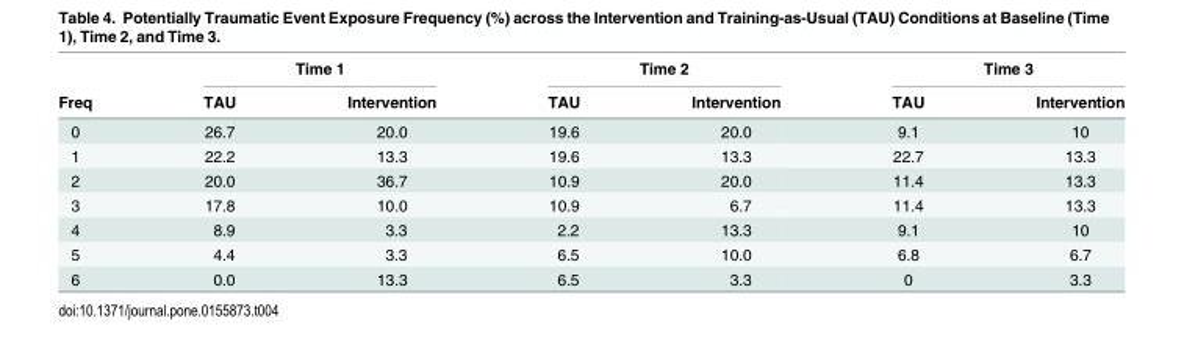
<table><thead><tr><td rowspan="2">Freq</td><td colspan="2">Time 1</td><td colspan="2">Time 2</td><td colspan="2">Time 3</td></tr><tr><td>TAU</td><td>Intervention</td><td>TAU</td><td>Intervention</td><td>TAU</td><td>Intervention</td></tr></thead><tbody><tr><td>0</td><td>26.7</td><td>20.0</td><td>19.6</td><td>20.0</td><td>9.1</td><td>10</td></tr><tr><td>1</td><td>22.2</td><td>13.3</td><td>19.6</td><td>13.3</td><td>22.7</td><td>13.3</td></tr><tr><td>2</td><td>20.0</td><td>36.7</td><td>10.9</td><td>20.0</td><td>11.4</td><td>13.3</td></tr><tr><td>3</td><td>17.8</td><td>10.0</td><td>10.9</td><td>6.7</td><td>11.4</td><td>13.3</td></tr><tr><td>4</td><td>8.9</td><td>3.3</td><td>2.2</td><td>13.3</td><td>9.1</td><td>10</td></tr><tr><td>5</td><td>4.4</td><td>3.3</td><td>6.5</td><td>10.0</td><td>6.8</td><td>6.7</td></tr><tr><td>6</td><td>0.0</td><td>13.3</td><td>6.5</td><td>3.3</td><td>0</td><td>3.3</td></tr></tbody></table>